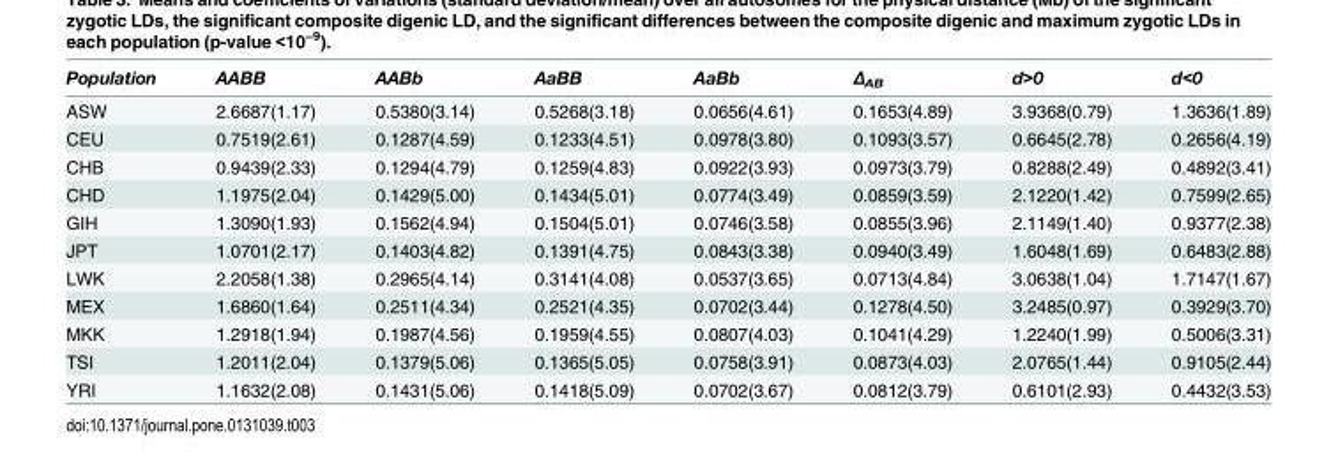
<table><thead><tr><td>Population</td><td>AABB</td><td>AABb</td><td>AaBB</td><td>AaBb</td><td>Δ<sub>AB</sub></td><td>d&gt;0</td><td>d&lt;0</td></tr></thead><tbody><tr><td>ASW</td><td>2.6687(1.17)</td><td>0.5380(3.14)</td><td>0.5268(3.18)</td><td>0.0656(4.61)</td><td>0.1653(4.89)</td><td>3.9368(0.79)</td><td>1.3636(1.89)</td></tr><tr><td>CEU</td><td>0.7519(2.61)</td><td>0.1287(4.59)</td><td>0.1233(4.51)</td><td>0.0978(3.80)</td><td>0.1093(3.57)</td><td>0.6645(2.78)</td><td>0.2656(4.19)</td></tr><tr><td>CHB</td><td>0.9439(2.33)</td><td>0.1294(4.79)</td><td>0.1259(4.83)</td><td>0.0922(3.93)</td><td>0.0973(3.79)</td><td>0.8288(2.49)</td><td>0.4892(3.41)</td></tr><tr><td>CHD</td><td>1.1975(2.04)</td><td>0.1429(5.00)</td><td>0.1434(5.01)</td><td>0.0774(3.49)</td><td>0.0859(3.59)</td><td>2.1220(1.42)</td><td>0.7599(2.65)</td></tr><tr><td>GIH</td><td>1.3090(1.93)</td><td>0.1562(4.94)</td><td>0.1504(5.01)</td><td>0.0746(3.58)</td><td>0.0855(3.96)</td><td>2.1149(1.40)</td><td>0.9377(2.38)</td></tr><tr><td>JPT</td><td>1.0701(2.17)</td><td>0.1403(4.82)</td><td>0.1391(4.75)</td><td>0.0843(3.38)</td><td>0.0940(3.49)</td><td>1.6048(1.69)</td><td>0.6483(2.88)</td></tr><tr><td>LWK</td><td>2.2058(1.38)</td><td>0.2965(4.14)</td><td>0.3141(4.08)</td><td>0.0537(3.65)</td><td>0.0713(4.84)</td><td>3.0638(1.04)</td><td>1.7147(1.67)</td></tr><tr><td>MEX</td><td>1.6860(1.64)</td><td>0.2511(4.34)</td><td>0.2521(4.35)</td><td>0.0702(3.44)</td><td>0.1278(4.50)</td><td>3.2485(0.97)</td><td>0.3929(3.70)</td></tr><tr><td>MKK</td><td>1.2918(1.94)</td><td>0.1987(4.56)</td><td>0.1959(4.55)</td><td>0.0807(4.03)</td><td>0.1041(4.29)</td><td>1.2240(1.99)</td><td>0.5006(3.31)</td></tr><tr><td>TSI</td><td>1.2011(2.04)</td><td>0.1379(5.06)</td><td>0.1365(5.05)</td><td>0.0758(3.91)</td><td>0.0873(4.03)</td><td>2.0765(1.44)</td><td>0.9105(2.44)</td></tr><tr><td>YRI</td><td>1.1632(2.08)</td><td>0.1431(5.06)</td><td>0.1418(5.09)</td><td>0.0702(3.67)</td><td>0.0812(3.79)</td><td>0.6101(2.93)</td><td>0.4432(3.53)</td></tr></tbody></table>